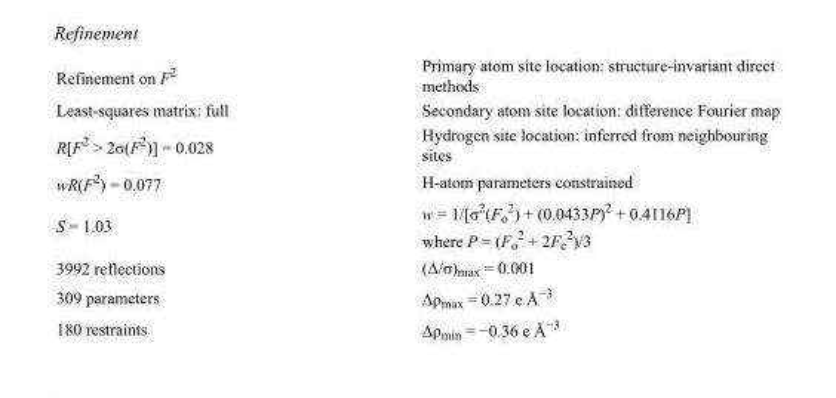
<table><tbody><tr><td>Refinement on F<sup>2</sup></td><td>Primary atom site location: structure-invariant direct methods</td></tr><tr><td>Least-squares matrix: full</td><td>Secondary atom site location: difference Fourier map</td></tr><tr><td>R[F<sup>2</sup> &gt; 2σ(F<sup>2</sup>)] = 0.028</td><td>Hydrogen site location: inferred from neighbouring sites</td></tr><tr><td>wR(F<sup>2</sup>) = 0.077</td><td>H-atom parameters constrained</td></tr><tr><td>S = 1.03</td><td>w = 1/[σ<sup>2</sup>(F<sub>o</sub> <sup>2</sup>) + (0.0433P)<sup>2</sup> + 0.4116P] where P = (F<sub>o</sub> <sup>2</sup> + 2F<sub>c</sub> <sup>2</sup>)/3</td></tr><tr><td>3992 reflections</td><td>(Δ/σ)<sub>max</sub> = 0.001</td></tr><tr><td>309 parameters</td><td>Δρ<sub>max</sub> = 0.27 e Å<sup>−3</sup></td></tr><tr><td>180 restraints</td><td>Δρ<sub>min</sub> = −0.36 e Å<sup>−3</sup></td></tr></tbody></table>